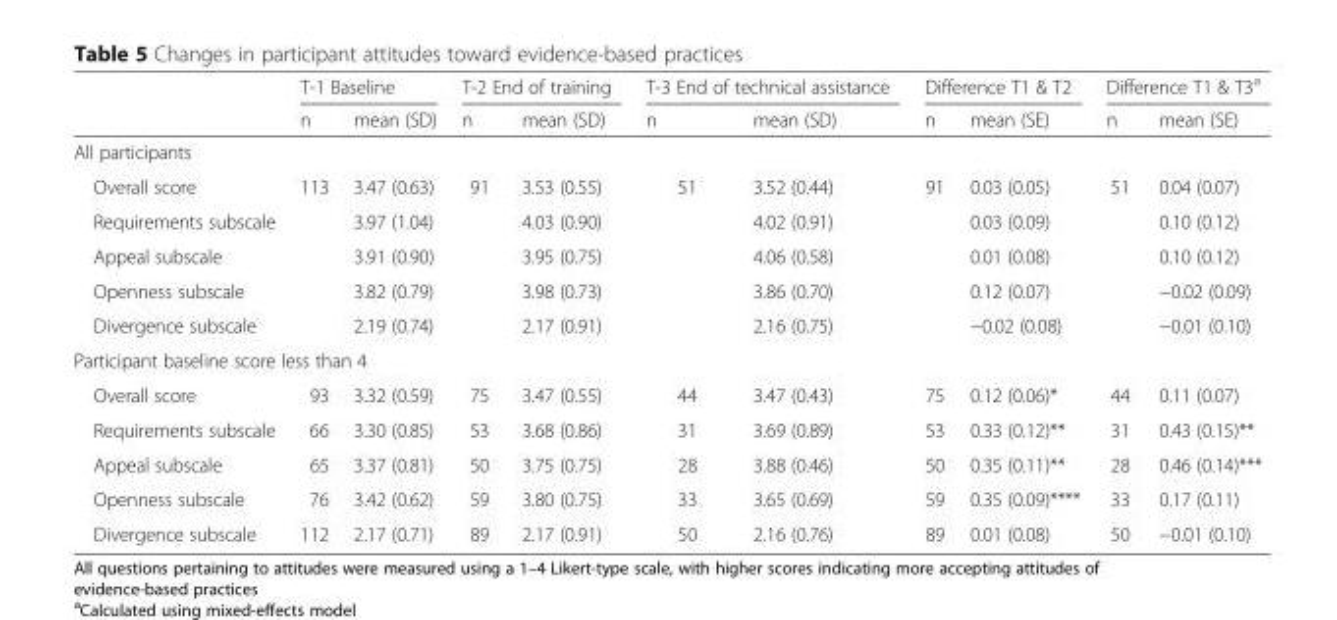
<table><thead><tr><td rowspan="2"></td><td colspan="2">T-1 Baseline</td><td colspan="2">T-2 End of training</td><td colspan="2">T-3 End of technical assistance</td><td colspan="2">Difference T1 &amp; T2</td><td colspan="2">Difference T1 &amp; T3<sup>a</sup></td></tr><tr><td>n</td><td>mean (SD)</td><td>n</td><td>mean (SD)</td><td>n</td><td>mean (SD)</td><td>n</td><td>mean (SE)</td><td>n</td><td>mean (SE)</td></tr></thead><tbody><tr><td colspan="11">All participants</td></tr><tr><td>Overall score</td><td>113</td><td>3.47 (0.63)</td><td>91</td><td>3.53 (0.55)</td><td>51</td><td>3.52 (0.44)</td><td>91</td><td>0.03 (0.05)</td><td>51</td><td>0.04 (0.07)</td></tr><tr><td>Requirements subscale</td><td></td><td>3.97 (1.04)</td><td></td><td>4.03 (0.90)</td><td></td><td>4.02 (0.91)</td><td></td><td>0.03 (0.09)</td><td></td><td>0.10 (0.12)</td></tr><tr><td>Appeal subscale</td><td></td><td>3.91 (0.90)</td><td></td><td>3.95 (0.75)</td><td></td><td>4.06 (0.58)</td><td></td><td>0.01 (0.08)</td><td></td><td>0.10 (0.12)</td></tr><tr><td>Openness subscale</td><td></td><td>3.82 (0.79)</td><td></td><td>3.98 (0.73)</td><td></td><td>3.86 (0.70)</td><td></td><td>0.12 (0.07)</td><td></td><td>−0.02 (0.09)</td></tr><tr><td>Divergence subscale</td><td></td><td>2.19 (0.74)</td><td></td><td>2.17 (0.91)</td><td></td><td>2.16 (0.75)</td><td></td><td>−0.02 (0.08)</td><td></td><td>−0.01 (0.10)</td></tr><tr><td colspan="11">Participant baseline score less than 4</td></tr><tr><td>Overall score</td><td>93</td><td>3.32 (0.59)</td><td>75</td><td>3.47 (0.55)</td><td>44</td><td>3.47 (0.43)</td><td>75</td><td>0.12 (0.06)*</td><td>44</td><td>0.11 (0.07)</td></tr><tr><td>Requirements subscale</td><td>66</td><td>3.30 (0.85)</td><td>53</td><td>3.68 (0.86)</td><td>31</td><td>3.69 (0.89)</td><td>53</td><td>0.33 (0.12)**</td><td>31</td><td>0.43 (0.15)**</td></tr><tr><td>Appeal subscale</td><td>65</td><td>3.37 (0.81)</td><td>50</td><td>3.75 (0.75)</td><td>28</td><td>3.88 (0.46)</td><td>50</td><td>0.35 (0.11)**</td><td>28</td><td>0.46 (0.14)***</td></tr><tr><td>Openness subscale</td><td>76</td><td>3.42 (0.62)</td><td>59</td><td>3.80 (0.75)</td><td>33</td><td>3.65 (0.69)</td><td>59</td><td>0.35 (0.09)****</td><td>33</td><td>0.17 (0.11)</td></tr><tr><td>Divergence subscale</td><td>112</td><td>2.17 (0.71)</td><td>89</td><td>2.17 (0.91)</td><td>50</td><td>2.16 (0.76)</td><td>89</td><td>0.01 (0.08)</td><td>50</td><td>−0.01 (0.10)</td></tr></tbody></table>